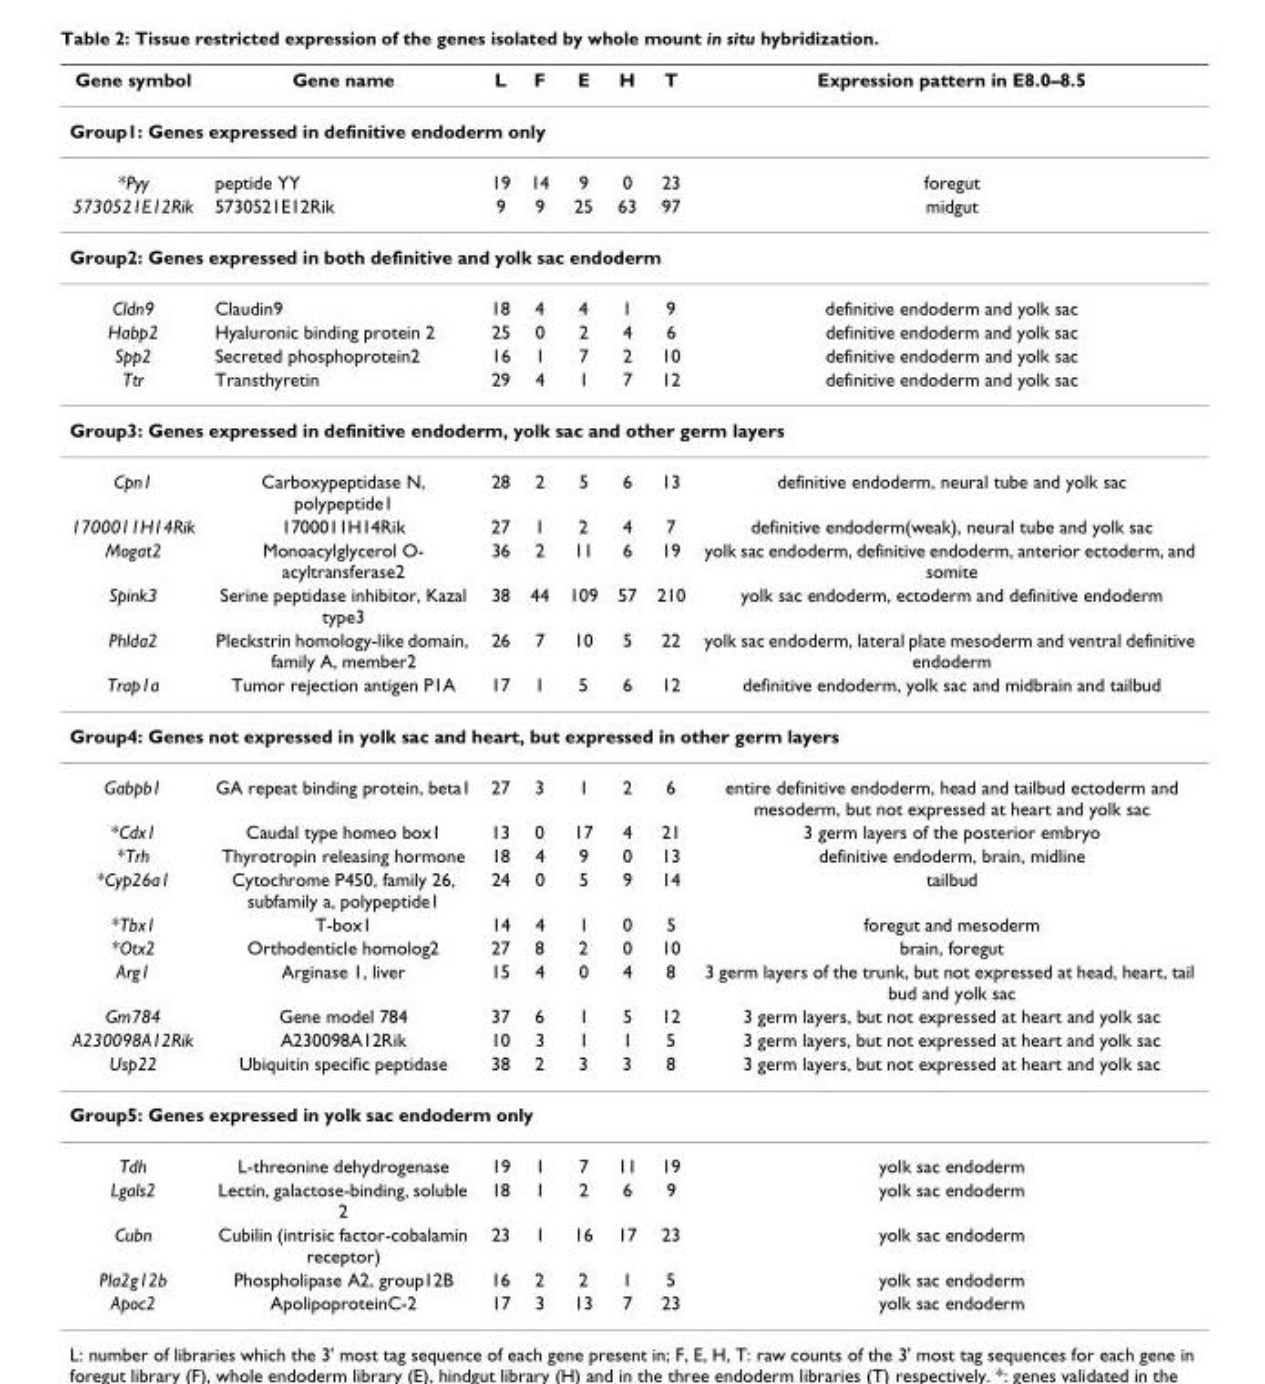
<table><thead><tr><td>Gene symbol</td><td>Gene name</td><td>L</td><td>F</td><td>E</td><td>H</td><td>T</td><td>Expression pattern in E8.0–8.5</td></tr></thead><tbody><tr><td colspan="8">Group1: Genes expressed in definitive endoderm only</td></tr><tr><td>*Pyy</td><td>peptide YY</td><td>19</td><td>14</td><td>9</td><td>0</td><td>23</td><td>foregut</td></tr><tr><td>5730521E12Rik</td><td>5730521E12Rik</td><td>9</td><td>9</td><td>25</td><td>63</td><td>97</td><td>midgut</td></tr><tr><td colspan="8">Group2: Genes expressed in both definitive and yolk sac endoderm</td></tr><tr><td>Cldn9</td><td>Claudin9</td><td>18</td><td>4</td><td>4</td><td>1</td><td>9</td><td>definitive endoderm and yolk sac</td></tr><tr><td>Habp2</td><td>Hyaluronic binding protein 2</td><td>25</td><td>0</td><td>2</td><td>4</td><td>6</td><td>definitive endoderm and yolk sac</td></tr><tr><td>Spp2</td><td>Secreted phosphoprotein2</td><td>16</td><td>1</td><td>7</td><td>2</td><td>10</td><td>definitive endoderm and yolk sac</td></tr><tr><td>Ttr</td><td>Transthyretin</td><td>29</td><td>4</td><td>1</td><td>7</td><td>12</td><td>definitive endoderm and yolk sac</td></tr><tr><td colspan="8">Group3: Genes expressed in definitive endoderm, yolk sac and other germ layers</td></tr><tr><td>Cpn1</td><td>Carboxypeptidase N, polypeptide1</td><td>28</td><td>2</td><td>5</td><td>6</td><td>13</td><td>definitive endoderm, neural tube and yolk sac</td></tr><tr><td>1700011H14Rik</td><td>1700011H14Rik</td><td>27</td><td>1</td><td>2</td><td>4</td><td>7</td><td>definitive endoderm(weak), neural tube and yolk sac</td></tr><tr><td>Mogat2</td><td>Monoacylglycerol O- acyltransferase2</td><td>36</td><td>2</td><td>11</td><td>6</td><td>19</td><td>yolk sac endoderm, definitive endoderm, anterior ectoderm, and somite</td></tr><tr><td>Spink3</td><td>Serine peptidase inhibitor, Kazal type3</td><td>38</td><td>44</td><td>109</td><td>57</td><td>210</td><td>yolk sac endoderm, ectoderm and definitive endoderm</td></tr><tr><td>Phlda2</td><td>Pleckstrin homology-like domain, family A, member2</td><td>26</td><td>7</td><td>10</td><td>5</td><td>22</td><td>yolk sac endoderm, lateral plate mesoderm and ventral definitive endoderm</td></tr><tr><td>Trap1a</td><td>Tumor rejection antigen P1A</td><td>17</td><td>1</td><td>5</td><td>6</td><td>12</td><td>definitive endoderm, yolk sac and midbrain and tailbud</td></tr><tr><td colspan="8">Group4: Genes not expressed in yolk sac and heart, but expressed in other germ layers</td></tr><tr><td>Gabpb1</td><td>GA repeat binding protein, beta1</td><td>27</td><td>3</td><td>1</td><td>2</td><td>6</td><td>entire definitive endoderm, head and tailbud ectoderm and mesoderm, but not expressed at heart and yolk sac</td></tr><tr><td>*Cdx1</td><td>Caudal type homeo box1</td><td>13</td><td>0</td><td>17</td><td>4</td><td>21</td><td>3 germ layers of the posterior embryo</td></tr><tr><td>*Trh</td><td>Thyrotropin releasing hormone</td><td>18</td><td>4</td><td>9</td><td>0</td><td>13</td><td>definitive endoderm, brain, midline</td></tr><tr><td>*Cyp26a1</td><td>Cytochrome P450, family 26, subfamily a, polypeptide1</td><td>24</td><td>0</td><td>5</td><td>9</td><td>14</td><td>tailbud</td></tr><tr><td>*Tbx1</td><td>T-box1</td><td>14</td><td>4</td><td>1</td><td>0</td><td>5</td><td>foregut and mesoderm</td></tr><tr><td>*Otx2</td><td>Orthodenticle homolog2</td><td>27</td><td>8</td><td>2</td><td>0</td><td>10</td><td>brain, foregut</td></tr><tr><td>Arg1</td><td>Arginase 1, liver</td><td>15</td><td>4</td><td>0</td><td>4</td><td>8</td><td>3 germ layers of the trunk, but not expressed at head, heart, tail bud and yolk sac</td></tr><tr><td>Gm784</td><td>Gene model 784</td><td>37</td><td>6</td><td>1</td><td>5</td><td>12</td><td>3 germ layers, but not expressed at heart and yolk sac</td></tr><tr><td>A230098A12Rik</td><td>A230098A12Rik</td><td>10</td><td>3</td><td>1</td><td>1</td><td>5</td><td>3 germ layers, but not expressed at heart and yolk sac</td></tr><tr><td>Usp22</td><td>Ubiquitin specific peptidase</td><td>38</td><td>2</td><td>3</td><td>3</td><td>8</td><td>3 germ layers, but not expressed at heart and yolk sac</td></tr><tr><td colspan="8">Group5: Genes expressed in yolk sac endoderm only</td></tr><tr><td>Tdh</td><td>L-threonine dehydrogenase</td><td>19</td><td>1</td><td>7</td><td>11</td><td>19</td><td>yolk sac endoderm</td></tr><tr><td>Lgals2</td><td>Lectin, galactose-binding, soluble 2</td><td>18</td><td>1</td><td>2</td><td>6</td><td>9</td><td>yolk sac endoderm</td></tr><tr><td>Cubn</td><td>Cubilin (intrisic factor-cobalamin receptor)</td><td>23</td><td>1</td><td>16</td><td>17</td><td>23</td><td>yolk sac endoderm</td></tr><tr><td>Pla2g12b</td><td>Phospholipase A2, group12B</td><td>16</td><td>2</td><td>2</td><td>1</td><td>5</td><td>yolk sac endoderm</td></tr><tr><td>Apoc2</td><td>ApolipoproteinC-2</td><td>17</td><td>3</td><td>13</td><td>7</td><td>23</td><td>yolk sac endoderm</td></tr></tbody></table>